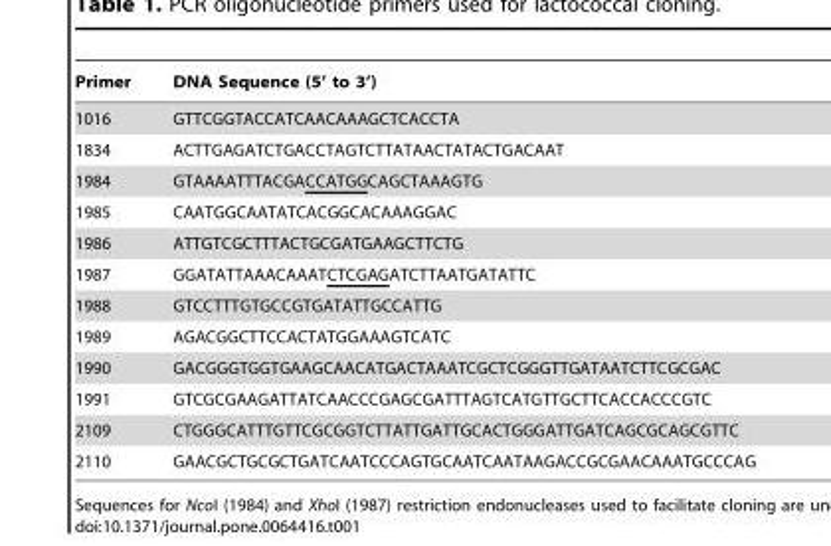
<table><thead><tr><td>Primer</td><td>DNA Sequence (5’ to 3’)</td></tr></thead><tbody><tr><td>1016</td><td>GTTCGGTACCATCAACAAAGCTCACCTA</td></tr><tr><td>1834</td><td>ACTTGAGATCTGACCTAGTCTTATAACTATACTGACAAT</td></tr><tr><td>1984</td><td>GTAAAATTTACGACCATGGCAGCTAAAGTG</td></tr><tr><td>1985</td><td>CAATGGCAATATCACGGCACAAAGGAC</td></tr><tr><td>1986</td><td>ATTGTCGCTTTACTGCGATGAAGCTTCTG</td></tr><tr><td>1987</td><td>GGATATTAAACAAATCTCGAGATCTTAATGATATTC</td></tr><tr><td>1988</td><td>GTCCTTTGTGCCGTGATATTGCCATTG</td></tr><tr><td>1989</td><td>AGACGGCTTCCACTATGGAAAGTCATC</td></tr><tr><td>1990</td><td>GACGGGTGGTGAAGCAACATGACTAAATCGCTCGGGTTGATAATCTTCGCGAC</td></tr><tr><td>1991</td><td>GTCGCGAAGATTATCAACCCGAGCGATTTAGTCATGTTGCTTCACCACCCGTC</td></tr><tr><td>2109</td><td>CTGGGCATTTGTTCGCGGTCTTATTGATTGCACTGGGATTGATCAGCGCAGCGTTC</td></tr><tr><td>2110</td><td>GAACGCTGCGCTGATCAATCCCAGTGCAATCAATAAGACCGCGAACAAATGCCCAG</td></tr></tbody></table>